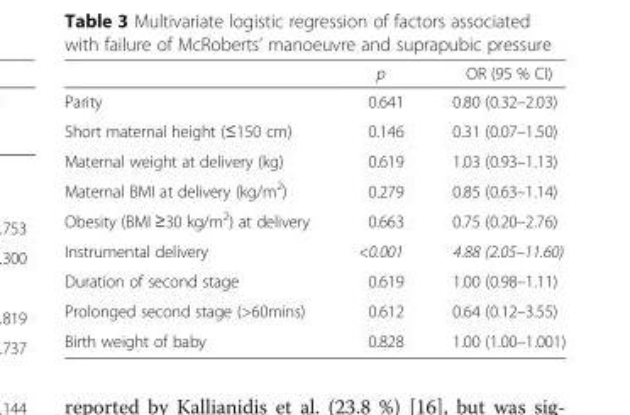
<table><thead><tr><td></td><td>p</td><td>OR (95 % CI)</td></tr></thead><tbody><tr><td>Parity</td><td>0.641</td><td>0.80 (0.32–2.03)</td></tr><tr><td>Short maternal height (≤150 cm)</td><td>0.146</td><td>0.31 (0.07–1.50)</td></tr><tr><td>Maternal weight at delivery (kg)</td><td>0.619</td><td>1.03 (0.93–1.13)</td></tr><tr><td>Maternal BMI at delivery (kg/m<sup>2</sup>)</td><td>0.279</td><td>0.85 (0.63–1.14)</td></tr><tr><td>Obesity (BMI ≥30 kg/m<sup>2</sup>) at delivery</td><td>0.663</td><td>0.75 (0.20–2.76)</td></tr><tr><td>Instrumental delivery</td><td>&lt;0.001</td><td>4.88 (2.05–11.60)</td></tr><tr><td>Duration of second stage</td><td>0.619</td><td>1.00 (0.98–1.11)</td></tr><tr><td>Prolonged second stage (&gt;60mins)</td><td>0.612</td><td>0.64 (0.12–3.55)</td></tr><tr><td>Birth weight of baby</td><td>0.828</td><td>1.00 (1.00–1.001)</td></tr></tbody></table>